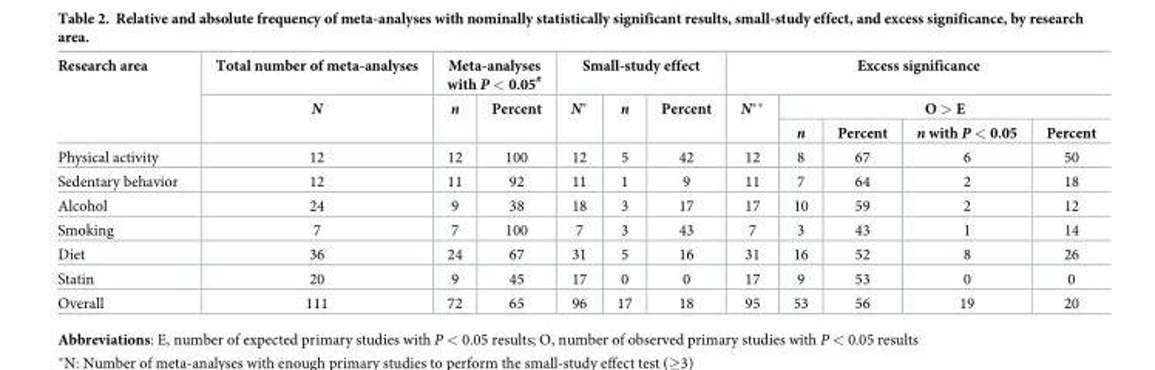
<table><thead><tr><td rowspan="3">Research area</td><td rowspan="3">Total number of meta-analyses N</td><td colspan="2">Meta-analyses with P &lt; 0.05<sup>#</sup></td><td colspan="3">Small-study effect</td><td colspan="5">Excess significance</td></tr><tr><td rowspan="2">n</td><td rowspan="2">Percent</td><td rowspan="2">N*</td><td rowspan="2">n</td><td rowspan="2">Percent</td><td rowspan="2">N**</td><td colspan="4">O &gt; E</td></tr><tr><td>n</td><td>Percent</td><td>n with P &lt; 0.05</td><td>Percent</td></tr></thead><tbody><tr><td>Physical activity</td><td>12</td><td>12</td><td>100</td><td>12</td><td>5</td><td>42</td><td>12</td><td>8</td><td>67</td><td>6</td><td>50</td></tr><tr><td>Sedentary behavior</td><td>12</td><td>11</td><td>92</td><td>11</td><td>1</td><td>9</td><td>11</td><td>7</td><td>64</td><td>2</td><td>18</td></tr><tr><td>Alcohol</td><td>24</td><td>9</td><td>38</td><td>18</td><td>3</td><td>17</td><td>17</td><td>10</td><td>59</td><td>2</td><td>12</td></tr><tr><td>Smoking</td><td>7</td><td>7</td><td>100</td><td>7</td><td>3</td><td>43</td><td>7</td><td>3</td><td>43</td><td>1</td><td>14</td></tr><tr><td>Diet</td><td>36</td><td>24</td><td>67</td><td>31</td><td>5</td><td>16</td><td>31</td><td>16</td><td>52</td><td>8</td><td>26</td></tr><tr><td>Statin</td><td>20</td><td>9</td><td>45</td><td>17</td><td>0</td><td>0</td><td>17</td><td>9</td><td>53</td><td>0</td><td>0</td></tr><tr><td>Overall</td><td>111</td><td>72</td><td>65</td><td>96</td><td>17</td><td>18</td><td>95</td><td>53</td><td>56</td><td>19</td><td>20</td></tr></tbody></table>